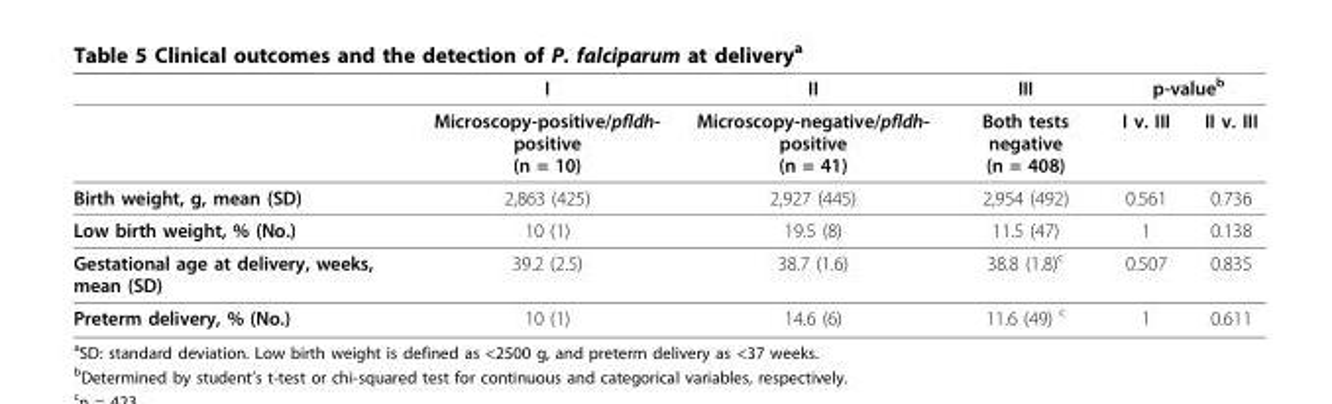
<table><thead><tr><td rowspan="2"></td><td rowspan="2">I Microscopy-positive/pfldh- positive (n = 10)</td><td rowspan="2">II Microscopy-negative/pfldh- positive (n = 41)</td><td rowspan="2">III Both tests negative (n = 408)</td><td colspan="2">p-valueb</td></tr><tr><td>I v. III</td><td>II v. III</td></tr></thead><tbody><tr><td>Birth weight, g, mean (SD)</td><td>2,863 (425)</td><td>2,927 (445)</td><td>2,954 (492)</td><td>0.561</td><td>0.736</td></tr><tr><td>Low birth weight, % (No.)</td><td>10 (1)</td><td>19.5 (8)</td><td>11.5 (47)</td><td>1</td><td>0.138</td></tr><tr><td>Gestational age at delivery, weeks, mean (SD)</td><td>39.2 (2.5)</td><td>38.7 (1.6)</td><td>38.8 (1.8)<sup>c</sup></td><td>0.507</td><td>0.835</td></tr><tr><td>Preterm delivery, % (No.)</td><td>10 (1)</td><td>14.6 (6)</td><td>11.6 (49) <sup>c</sup></td><td>1</td><td>0.611</td></tr></tbody></table>